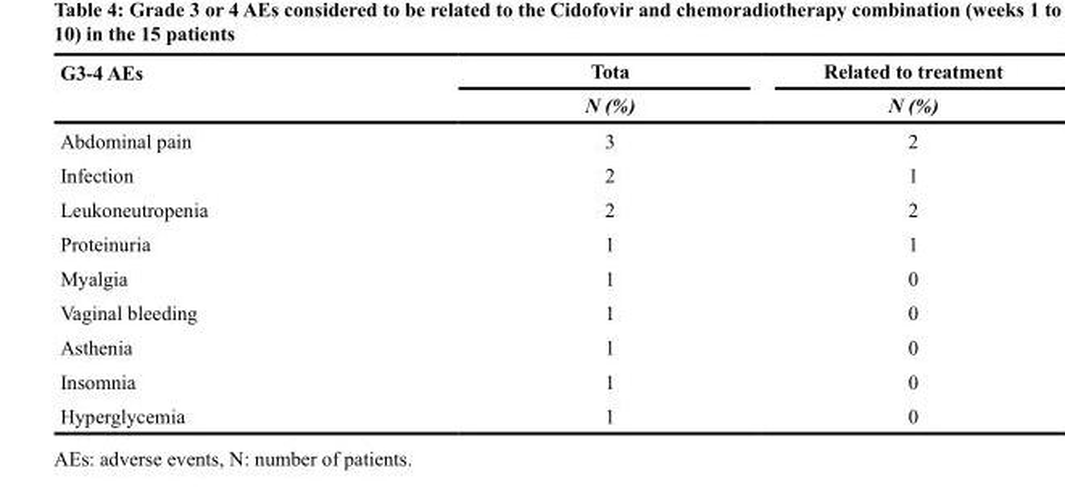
<table><thead><tr><td rowspan="2">G3-4 AEs</td><td rowspan="2">Tota N (%)</td><td rowspan="2">Related to treatment N (%)</td></tr><tr></tr></thead><tbody><tr><td>Abdominal pain</td><td>3</td><td>2</td></tr><tr><td>Infection</td><td>2</td><td>1</td></tr><tr><td>Leukoneutropenia</td><td>2</td><td>2</td></tr><tr><td>Proteinuria</td><td>1</td><td>1</td></tr><tr><td>Myalgia</td><td>1</td><td>0</td></tr><tr><td>Vaginal bleeding</td><td>1</td><td>0</td></tr><tr><td>Asthenia</td><td>1</td><td>0</td></tr><tr><td>Insomnia</td><td>1</td><td>0</td></tr><tr><td>Hyperglycemia</td><td>1</td><td>0</td></tr></tbody></table>